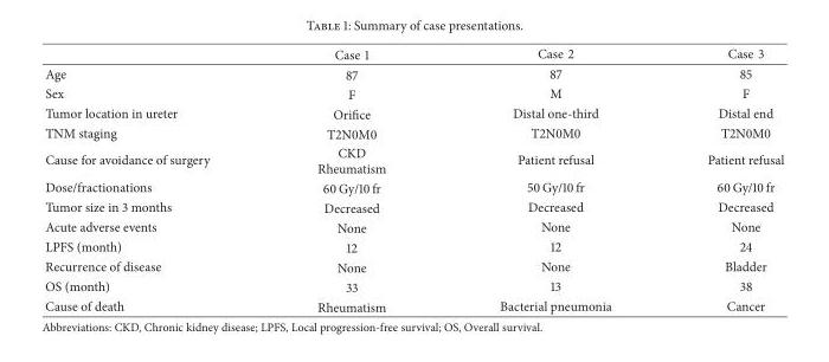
<table><thead><tr><td></td><td>Case 1</td><td>Case 2</td><td>Case 3</td></tr></thead><tbody><tr><td>Age</td><td>87</td><td>87</td><td>85</td></tr><tr><td>Sex</td><td>F</td><td>M</td><td>F</td></tr><tr><td>Tumor location in ureter</td><td>Orifice</td><td>Distal one-third</td><td>Distal end</td></tr><tr><td>TNM staging</td><td>T2N0M0</td><td>T2N0M0</td><td>T2N0M0</td></tr><tr><td>Cause for avoidance of surgery</td><td>CKD Rheumatism</td><td>Patient refusal</td><td>Patient refusal</td></tr><tr><td>Dose/fractionations</td><td>60 Gy/10 fr</td><td>50 Gy/10 fr</td><td>60 Gy/10 fr</td></tr><tr><td>Tumor size in 3 months</td><td>Decreased</td><td>Decreased</td><td>Decreased</td></tr><tr><td>Acute adverse events</td><td>None</td><td>None</td><td>None</td></tr><tr><td>LPFS (month)</td><td>12</td><td>12</td><td>24</td></tr><tr><td>Recurrence of disease</td><td>None</td><td>None</td><td>Bladder</td></tr><tr><td>OS (month)</td><td>33</td><td>13</td><td>38</td></tr><tr><td>Cause of death</td><td>Rheumatism</td><td>Bacterial pneumonia</td><td>Cancer</td></tr></tbody></table>